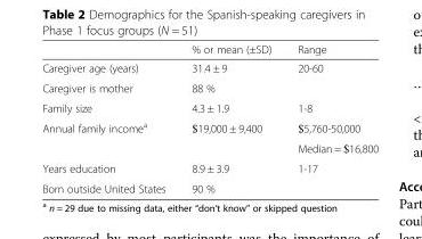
<table><thead><tr><td></td><td>% or mean (±SD)</td><td>Range</td></tr></thead><tbody><tr><td>Caregiver age (years)</td><td>31.4 ± 9</td><td>20-60</td></tr><tr><td>Caregiver is mother</td><td>88 %</td><td></td></tr><tr><td>Family size</td><td>4.3 ± 1.9</td><td>1-8</td></tr><tr><td rowspan="2">Annual family income<sup>a</sup></td><td rowspan="2">$19,000 ± 9,400</td><td>$5,760-50,000</td></tr><tr><td>Median = $16,800</td></tr><tr><td>Years education</td><td>8.9 ± 3.9</td><td>1-17</td></tr><tr><td>Born outside United States</td><td>90 %</td><td></td></tr></tbody></table>